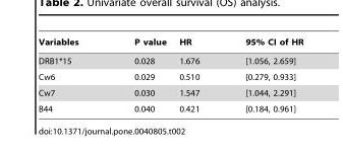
<table><thead><tr><td>Variables</td><td>P value</td><td>HR</td><td>95% CI of HR</td></tr></thead><tbody><tr><td>DRB1*15</td><td>0.028</td><td>1.676</td><td>[1.056, 2.659]</td></tr><tr><td>Cw6</td><td>0.029</td><td>0.510</td><td>[0.279, 0.933]</td></tr><tr><td>Cw7</td><td>0.030</td><td>1.547</td><td>[1.044, 2.291]</td></tr><tr><td>B44</td><td>0.040</td><td>0.421</td><td>[0.184, 0.961]</td></tr></tbody></table>